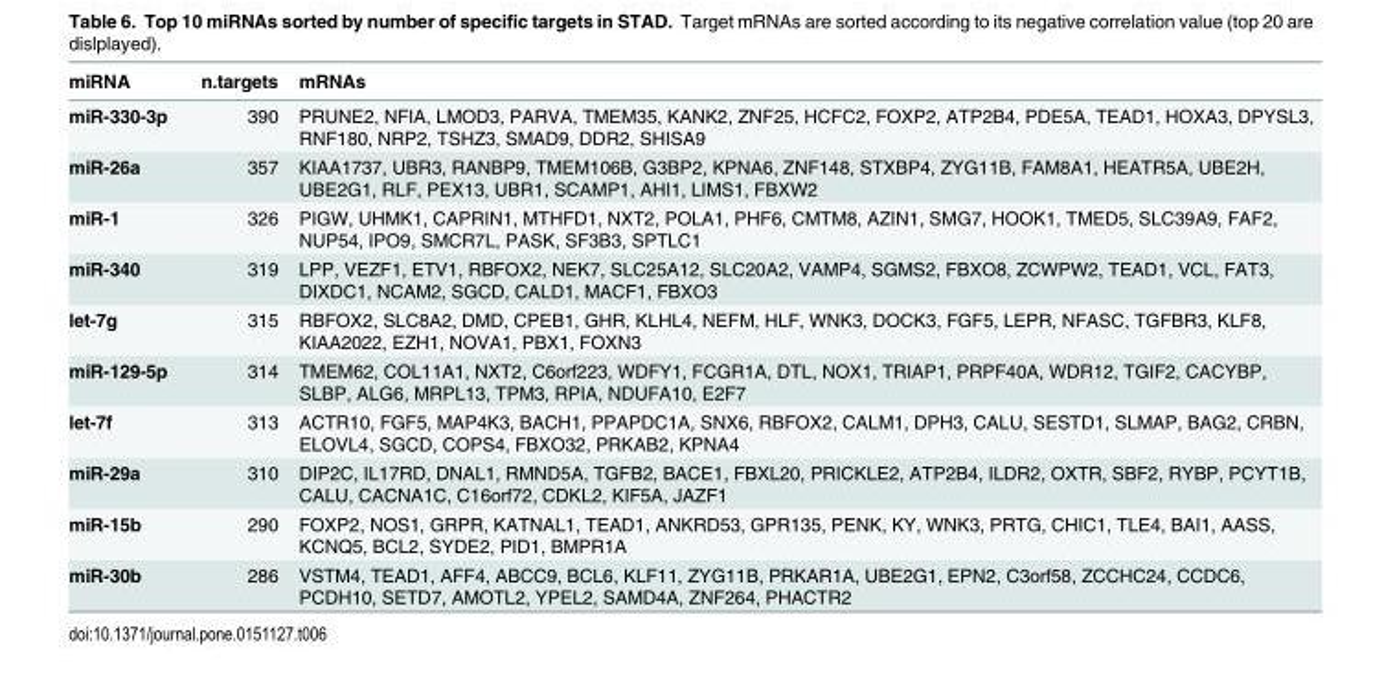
<table><thead><tr><td>miRNA</td><td>n.targets</td><td>mRNAs</td></tr></thead><tbody><tr><td>miR-330-3p</td><td>390</td><td>PRUNE2, NFIA, LMOD3, PARVA, TMEM35, KANK2, ZNF25, HCFC2, FOXP2, ATP2B4, PDE5A, TEAD1, HOXA3, DPYSL3, RNF180, NRP2, TSHZ3, SMAD9, DDR2, SHISA9</td></tr><tr><td>miR-26a</td><td>357</td><td>KIAA1737, UBR3, RANBP9, TMEM106B, G3BP2, KPNA6, ZNF148, STXBP4, ZYG11B, FAM8A1, HEATR5A, UBE2H, UBE2G1, RLF, PEX13, UBR1, SCAMP1, AHI1, LIMS1, FBXW2</td></tr><tr><td>miR-1</td><td>326</td><td>PIGW, UHMK1, CAPRIN1, MTHFD1, NXT2, POLA1, PHF6, CMTM8, AZIN1, SMG7, HOOK1, TMED5, SLC39A9, FAF2, NUP54, IPO9, SMCR7L, PASK, SF3B3, SPTLC1</td></tr><tr><td>miR-340</td><td>319</td><td>LPP, VEZF1, ETV1, RBFOX2, NEK7, SLC25A12, SLC20A2, VAMP4, SGMS2, FBXO8, ZCWPW2, TEAD1, VCL, FAT3, DIXDC1, NCAM2, SGCD, CALD1, MACF1, FBXO3</td></tr><tr><td>let-7g</td><td>315</td><td>RBFOX2, SLC8A2, DMD, CPEB1, GHR, KLHL4, NEFM, HLF, WNK3, DOCK3, FGF5, LEPR, NFASC, TGFBR3, KLF8, KIAA2022, EZH1, NOVA1, PBX1, FOXN3</td></tr><tr><td>miR-129-5p</td><td>314</td><td>TMEM62, COL11A1, NXT2, C6orf223, WDFY1, FCGR1A, DTL, NOX1, TRIAP1, PRPF40A, WDR12, TGIF2, CACYBP, SLBP, ALG6, MRPL13, TPM3, RPIA, NDUFA10, E2F7</td></tr><tr><td>let-7f</td><td>313</td><td>ACTR10, FGF5, MAP4K3, BACH1, PPAPDC1A, SNX6, RBFOX2, CALM1, DPH3, CALU, SESTD1, SLMAP, BAG2, CRBN, ELOVL4, SGCD, COPS4, FBXO32, PRKAB2, KPNA4</td></tr><tr><td>miR-29a</td><td>310</td><td>DIP2C, IL17RD, DNAL1, RMND5A, TGFB2, BACE1, FBXL20, PRICKLE2, ATP2B4, ILDR2, OXTR, SBF2, RYBP, PCYT1B, CALU, CACNA1C, C16orf72, CDKL2, KIF5A, JAZF1</td></tr><tr><td>miR-15b</td><td>290</td><td>FOXP2, NOS1, GRPR, KATNAL1, TEAD1, ANKRD53, GPR135, PENK, KY, WNK3, PRTG, CHIC1, TLE4, BAI1, AASS, KCNQ5, BCL2, SYDE2, PID1, BMPR1A</td></tr><tr><td>miR-30b</td><td>286</td><td>VSTM4, TEAD1, AFF4, ABCC9, BCL6, KLF11, ZYG11B, PRKAR1A, UBE2G1, EPN2, C3orf58, ZCCHC24, CCDC6, PCDH10, SETD7, AMOTL2, YPEL2, SAMD4A, ZNF264, PHACTR2</td></tr></tbody></table>